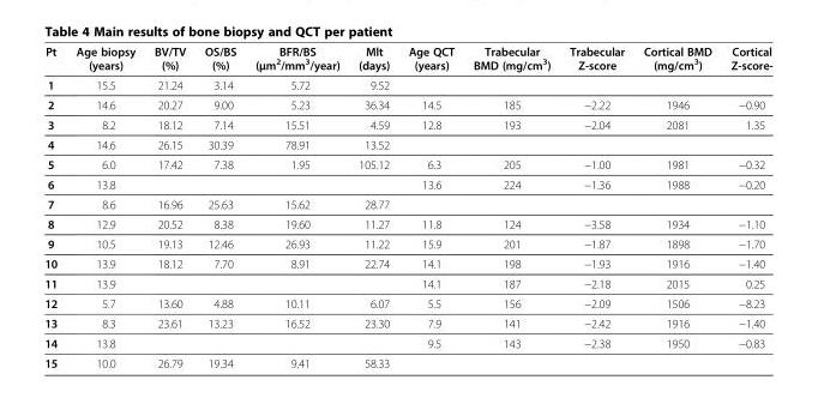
<table><thead><tr><td>Pt</td><td>Age biopsy (years)</td><td>BV/TV (%)</td><td>OS/BS (%)</td><td>BFR/BS (μm<sup>2</sup>/mm<sup>3</sup>/year)</td><td>Mlt (days)</td><td>Age QCT (years)</td><td>Trabecular BMD (mg/cm<sup>3</sup>)</td><td>Trabecular Z-score</td><td>Cortical BMD (mg/cm<sup>3</sup>)</td><td>Cortical Z-score-</td></tr></thead><tbody><tr><td>1</td><td>15.5</td><td>21.24</td><td>3.14</td><td>5.72</td><td>9.52</td><td></td><td></td><td></td><td></td><td></td></tr><tr><td>2</td><td>14.6</td><td>20.27</td><td>9.00</td><td>5.23</td><td>36.34</td><td>14.5</td><td>185</td><td>−2.22</td><td>1946</td><td>−0.90</td></tr><tr><td>3</td><td>8.2</td><td>18.12</td><td>7.14</td><td>15.51</td><td>4.59</td><td>12.8</td><td>193</td><td>−2.04</td><td>2081</td><td>1.35</td></tr><tr><td>4</td><td>14.6</td><td>26.15</td><td>30.39</td><td>78.91</td><td>13.52</td><td></td><td></td><td></td><td></td><td></td></tr><tr><td>5</td><td>6.0</td><td>17.42</td><td>7.38</td><td>1.95</td><td>105.12</td><td>6.3</td><td>205</td><td>−1.00</td><td>1981</td><td>−0.32</td></tr><tr><td>6</td><td>13.8</td><td></td><td></td><td></td><td></td><td>13.6</td><td>224</td><td>−1.36</td><td>1988</td><td>−0.20</td></tr><tr><td>7</td><td>8.6</td><td>16.96</td><td>25.63</td><td>15.62</td><td>28.77</td><td></td><td></td><td></td><td></td><td></td></tr><tr><td>8</td><td>12.9</td><td>20.52</td><td>8.38</td><td>19.60</td><td>11.27</td><td>11.8</td><td>124</td><td>−3.58</td><td>1934</td><td>−1.10</td></tr><tr><td>9</td><td>10.5</td><td>19.13</td><td>12.46</td><td>26.93</td><td>11.22</td><td>15.9</td><td>201</td><td>−1.87</td><td>1898</td><td>−1.70</td></tr><tr><td>10</td><td>13.9</td><td>18.12</td><td>7.70</td><td>8.91</td><td>22.74</td><td>14.1</td><td>198</td><td>−1.93</td><td>1916</td><td>−1.40</td></tr><tr><td>11</td><td>13.9</td><td></td><td></td><td></td><td></td><td>14.1</td><td>187</td><td>−2.18</td><td>2015</td><td>0.25</td></tr><tr><td>12</td><td>5.7</td><td>13.60</td><td>4.88</td><td>10.11</td><td>6.07</td><td>5.5</td><td>156</td><td>−2.09</td><td>1506</td><td>−8.23</td></tr><tr><td>13</td><td>8.3</td><td>23.61</td><td>13.23</td><td>16.52</td><td>23.30</td><td>7.9</td><td>141</td><td>−2.42</td><td>1916</td><td>−1.40</td></tr><tr><td>14</td><td>13.8</td><td></td><td></td><td></td><td></td><td>9.5</td><td>143</td><td>−2.38</td><td>1950</td><td>−0.83</td></tr><tr><td>15</td><td>10.0</td><td>26.79</td><td>19.34</td><td>9.41</td><td>58.33</td><td></td><td></td><td></td><td></td><td></td></tr></tbody></table>